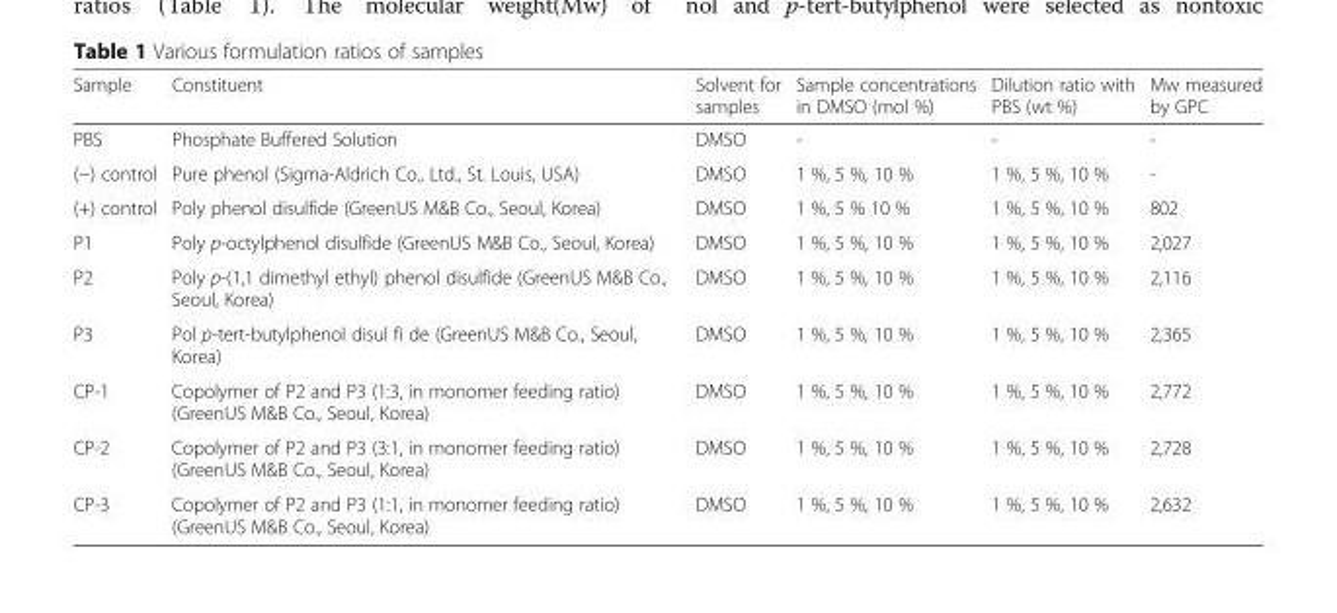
<table><thead><tr><td>Sample</td><td>Constituent</td><td>Solvent for samples</td><td>Sample concentrations in DMSO (mol %)</td><td>Dilution ratio with PBS (wt %)</td><td>Mw measured by GPC</td></tr></thead><tbody><tr><td>PBS</td><td>Phosphate Buffered Solution</td><td>DMSO</td><td>-</td><td>-</td><td>-</td></tr><tr><td>(−) control</td><td>Pure phenol (Sigma-Aldrich Co., Ltd., St. Louis, USA)</td><td>DMSO</td><td>1 %, 5 %, 10 %</td><td>1 %, 5 %, 10 %</td><td>-</td></tr><tr><td>(+) control</td><td>Poly phenol disulfide (GreenUS M&amp;B Co., Seoul, Korea)</td><td>DMSO</td><td>1 %, 5 % 10 %</td><td>1 %, 5 %, 10 %</td><td>802</td></tr><tr><td>P1</td><td>Poly p-octylphenol disulfide (GreenUS M&amp;B Co., Seoul, Korea)</td><td>DMSO</td><td>1 %, 5 %, 10 %</td><td>1 %, 5 %, 10 %</td><td>2,027</td></tr><tr><td>P2</td><td>Poly p-(1,1 dimethyl ethyl) phenol disulfide (GreenUS M&amp;B Co., Seoul, Korea)</td><td>DMSO</td><td>1 %, 5 %, 10 %</td><td>1 %, 5 %, 10 %</td><td>2,116</td></tr><tr><td>P3</td><td>Pol p-tert-butylphenol disul fi de (GreenUS M&amp;B Co., Seoul, Korea)</td><td>DMSO</td><td>1 %, 5 %, 10 %</td><td>1 %, 5 %, 10 %</td><td>2,365</td></tr><tr><td>CP-1</td><td>Copolymer of P2 and P3 (1:3, in monomer feeding ratio) (GreenUS M&amp;B Co., Seoul, Korea)</td><td>DMSO</td><td>1 %, 5 %, 10 %</td><td>1 %, 5 %, 10 %</td><td>2,772</td></tr><tr><td>CP-2</td><td>Copolymer of P2 and P3 (3:1, in monomer feeding ratio) (GreenUS M&amp;B Co., Seoul, Korea)</td><td>DMSO</td><td>1 %, 5 %, 10 %</td><td>1 %, 5 %, 10 %</td><td>2,728</td></tr><tr><td>CP-3</td><td>Copolymer of P2 and P3 (1:1, in monomer feeding ratio) (GreenUS M&amp;B Co., Seoul, Korea)</td><td>DMSO</td><td>1 %, 5 %, 10 %</td><td>1 %, 5 %, 10 %</td><td>2,632</td></tr></tbody></table>